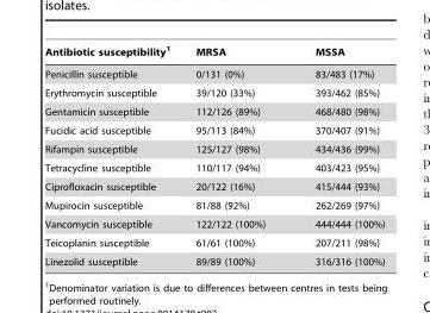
<table><thead><tr><td>Antibiotic susceptibility<sup>1</sup></td><td>MRSA</td><td>MSSA</td></tr></thead><tbody><tr><td>Penicillin susceptible</td><td>0/131 (0%)</td><td>83/483 (17%)</td></tr><tr><td>Erythromycin susceptible</td><td>39/120 (33%)</td><td>393/462 (85%)</td></tr><tr><td>Gentamicin susceptible</td><td>112/126 (89%)</td><td>468/480 (98%)</td></tr><tr><td>Fucidic acid susceptible</td><td>95/113 (84%)</td><td>370/407 (91%)</td></tr><tr><td>Rifampin susceptible</td><td>125/127 (98%)</td><td>434/436 (99%)</td></tr><tr><td>Tetracycline susceptible</td><td>110/117 (94%)</td><td>403/423 (95%)</td></tr><tr><td>Ciprofloxacin susceptible</td><td>20/122 (16%)</td><td>415/444 (93%)</td></tr><tr><td>Mupirocin susceptible</td><td>81/88 (92%)</td><td>262/269 (97%)</td></tr><tr><td>Vancomycin susceptible</td><td>122/122 (100%)</td><td>444/444 (100%)</td></tr><tr><td>Teicoplanin susceptible</td><td>61/61 (100%)</td><td>207/211 (98%)</td></tr><tr><td>Linezolid susceptible</td><td>89/89 (100%)</td><td>316/316 (100%)</td></tr></tbody></table>